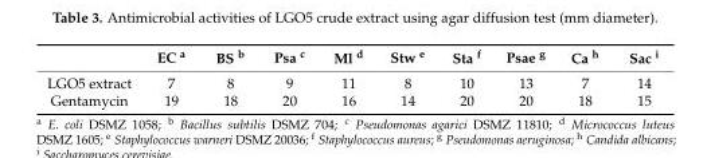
<table><thead><tr><td></td><td>EC <sup>a</sup></td><td>BS <sup>b</sup></td><td>Psa <sup>c</sup></td><td>Ml <sup>d</sup></td><td>Stw <sup>e</sup></td><td>Sta <sup>f</sup></td><td>Psae <sup>g</sup></td><td>Ca <sup>h</sup></td><td>Sac <sup>i</sup></td></tr></thead><tbody><tr><td>LGO5 extract</td><td>7</td><td>8</td><td>9</td><td>11</td><td>8</td><td>10</td><td>13</td><td>7</td><td>14</td></tr><tr><td>Gentamycin</td><td>19</td><td>18</td><td>20</td><td>16</td><td>14</td><td>20</td><td>20</td><td>18</td><td>15</td></tr></tbody></table>